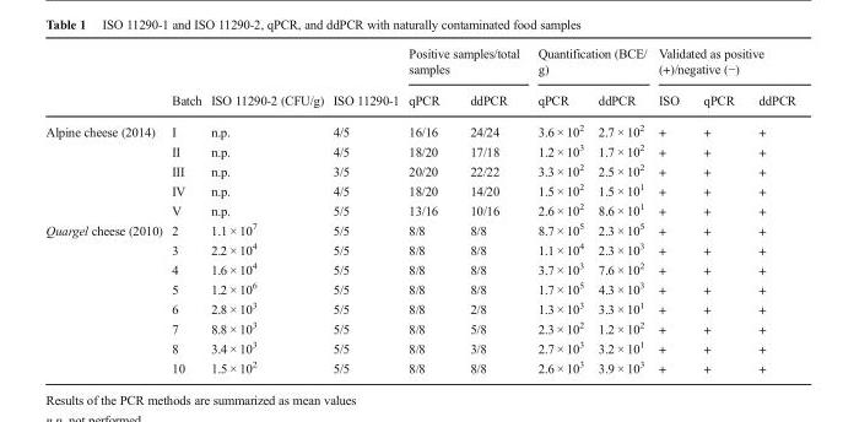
<table><thead><tr><td rowspan="2"></td><td rowspan="2">Batch</td><td rowspan="2">ISO 11290-2 (CFU/g)</td><td rowspan="2">ISO 11290-1</td><td colspan="2">Positive samples/total samples</td><td colspan="2">Quantification (BCE/ g)</td><td colspan="3">Validated as positive (+)/negative (−)</td></tr><tr><td>qPCR</td><td>ddPCR</td><td>qPCR</td><td>ddPCR</td><td>ISO</td><td>qPCR</td><td>ddPCR</td></tr></thead><tbody><tr><td rowspan="5">Alpine cheese (2014)</td><td>I</td><td>n.p.</td><td>4/5</td><td>16/16</td><td>24/24</td><td>3.6 × 10<sup>2</sup></td><td>2.7 × 10<sup>2</sup></td><td>+</td><td>+</td><td>+</td></tr><tr><td>II</td><td>n.p.</td><td>4/5</td><td>18/20</td><td>17/18</td><td>1.2 × 10<sup>3</sup></td><td>1.7 × 10<sup>2</sup></td><td>+</td><td>+</td><td>+</td></tr><tr><td>III</td><td>n.p.</td><td>3/5</td><td>20/20</td><td>22/22</td><td>3.3 × 10<sup>2</sup></td><td>2.5 × 10<sup>2</sup></td><td>+</td><td>+</td><td>+</td></tr><tr><td>IV</td><td>n.p.</td><td>4/5</td><td>18/20</td><td>14/20</td><td>1.5 × 10<sup>2</sup></td><td>1.5 × 10<sup>1</sup></td><td>+</td><td>+</td><td>+</td></tr><tr><td>V</td><td>n.p.</td><td>5/5</td><td>13/16</td><td>10/16</td><td>2.6 × 10<sup>2</sup></td><td>8.6 × 10<sup>1</sup></td><td>+</td><td>+</td><td>+</td></tr><tr><td rowspan="8">Quargel cheese (2010)</td><td>2</td><td>1.1 × 10<sup>7</sup></td><td>5/5</td><td>8/8</td><td>8/8</td><td>8.7 × 10<sup>5</sup></td><td>2.3 × 10<sup>5</sup></td><td>+</td><td>+</td><td>+</td></tr><tr><td>3</td><td>2.2 × 10<sup>4</sup></td><td>5/5</td><td>8/8</td><td>8/8</td><td>1.1 × 10<sup>4</sup></td><td>2.3 × 10<sup>3</sup></td><td>+</td><td>+</td><td>+</td></tr><tr><td>4</td><td>1.6 × 10<sup>4</sup></td><td>5/5</td><td>8/8</td><td>8/8</td><td>3.7 × 10<sup>3</sup></td><td>7.6 × 10<sup>2</sup></td><td>+</td><td>+</td><td>+</td></tr><tr><td>5</td><td>1.2 × 10<sup>6</sup></td><td>5/5</td><td>8/8</td><td>8/8</td><td>1.7 × 10<sup>5</sup></td><td>4.3 × 10<sup>3</sup></td><td>+</td><td>+</td><td>+</td></tr><tr><td>6</td><td>2.8 × 10<sup>3</sup></td><td>5/5</td><td>8/8</td><td>2/8</td><td>1.3 × 10<sup>3</sup></td><td>3.3 × 10<sup>1</sup></td><td>+</td><td>+</td><td>+</td></tr><tr><td>7</td><td>8.8 × 10<sup>3</sup></td><td>5/5</td><td>8/8</td><td>5/8</td><td>2.3 × 10<sup>2</sup></td><td>1.2 × 10<sup>2</sup></td><td>+</td><td>+</td><td>+</td></tr><tr><td>8</td><td>3.4 × 10<sup>3</sup></td><td>5/5</td><td>8/8</td><td>3/8</td><td>2.7 × 10<sup>3</sup></td><td>3.2 × 10<sup>1</sup></td><td>+</td><td>+</td><td>+</td></tr><tr><td>10</td><td>1.5 × 10<sup>2</sup></td><td>5/5</td><td>8/8</td><td>8/8</td><td>2.6 × 10<sup>3</sup></td><td>3.9 × 10<sup>3</sup></td><td>+</td><td>+</td><td>+</td></tr></tbody></table>